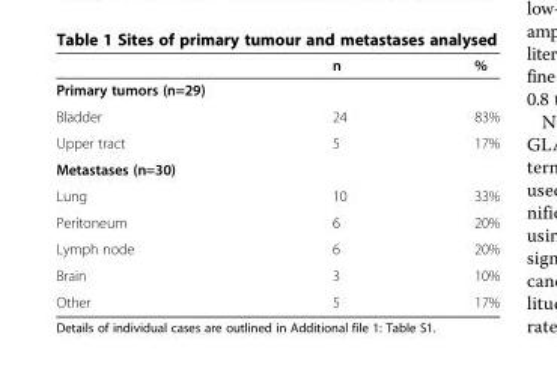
<table><thead><tr><td></td><td>n</td><td>%</td></tr></thead><tbody><tr><td colspan="3">Primary tumors (n=29)</td></tr><tr><td>Bladder</td><td>24</td><td>83%</td></tr><tr><td>Upper tract</td><td>5</td><td>17%</td></tr><tr><td colspan="3">Metastases (n=30)</td></tr><tr><td>Lung</td><td>10</td><td>33%</td></tr><tr><td>Peritoneum</td><td>6</td><td>20%</td></tr><tr><td>Lymph node</td><td>6</td><td>20%</td></tr><tr><td>Brain</td><td>3</td><td>10%</td></tr><tr><td>Other</td><td>5</td><td>17%</td></tr></tbody></table>